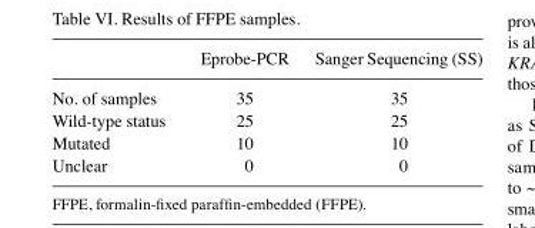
<table><thead><tr><td></td><td>Eprobe-PCR</td><td>Sanger Sequencing (SS)</td></tr></thead><tbody><tr><td>No. of samples</td><td>35</td><td>35</td></tr><tr><td>Wild-type status</td><td>25</td><td>25</td></tr><tr><td>Mutated</td><td>10</td><td>10</td></tr><tr><td>Unclear</td><td>0</td><td>0</td></tr></tbody></table>